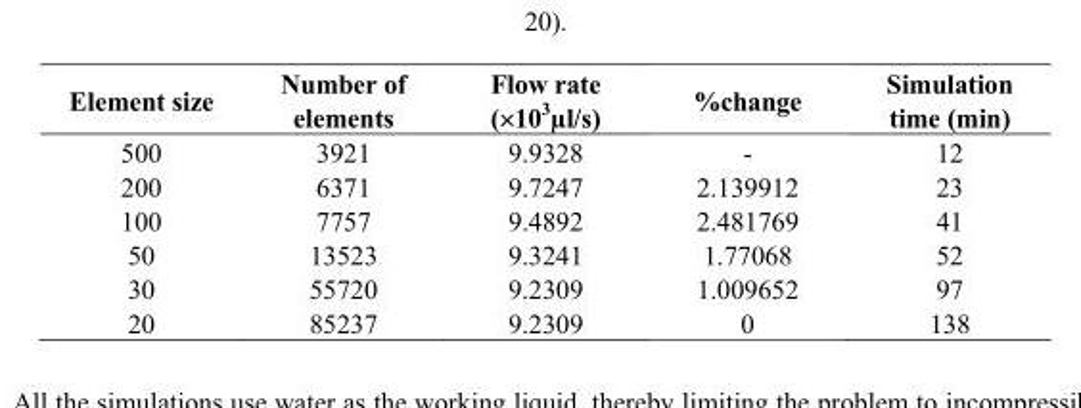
<table><thead><tr><td>Element size</td><td>Number of elements</td><td>Flow rate (×10<sup>3</sup>µl/s)</td><td>%change</td><td>Simulation time (min)</td></tr></thead><tbody><tr><td>500</td><td>3921</td><td>9.9328</td><td>-</td><td>12</td></tr><tr><td>200</td><td>6371</td><td>9.7247</td><td>2.139912</td><td>23</td></tr><tr><td>100</td><td>7757</td><td>9.4892</td><td>2.481769</td><td>41</td></tr><tr><td>50</td><td>13523</td><td>9.3241</td><td>1.77068</td><td>52</td></tr><tr><td>30</td><td>55720</td><td>9.2309</td><td>1.009652</td><td>97</td></tr><tr><td>20</td><td>85237</td><td>9.2309</td><td>0</td><td>138</td></tr></tbody></table>